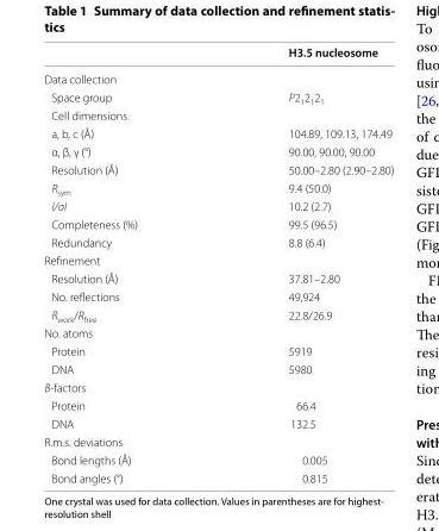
<table><thead><tr><td></td><td>H3.5 nucleosome</td></tr></thead><tbody><tr><td colspan="2">Data collection</td></tr><tr><td>Space group</td><td>P2<sub>1</sub>2<sub>1</sub>2<sub>1</sub></td></tr><tr><td colspan="2">Cell dimensions</td></tr><tr><td>a, b, c (Å)</td><td>104.89, 109.13, 174.49</td></tr><tr><td>α, β, γ (°)</td><td>90.00, 90.00, 90.00</td></tr><tr><td>Resolution (Å)</td><td>50.00–2.80 (2.90–2.80)</td></tr><tr><td>R<sub>sym</sub></td><td>9.4 (50.0)</td></tr><tr><td>I/σI</td><td>10.2 (2.7)</td></tr><tr><td>Completeness (%)</td><td>99.5 (96.5)</td></tr><tr><td>Redundancy</td><td>8.8 (6.4)</td></tr><tr><td colspan="2">Refinement</td></tr><tr><td>Resolution (Å)</td><td>37.81–2.80</td></tr><tr><td>No. reflections</td><td>49,924</td></tr><tr><td>R<sub>work</sub>/R<sub>free</sub></td><td>22.8/26.9</td></tr><tr><td colspan="2">No. atoms</td></tr><tr><td>Protein</td><td>5919</td></tr><tr><td>DNA</td><td>5980</td></tr><tr><td colspan="2">B-factors</td></tr><tr><td>Protein</td><td>66.4</td></tr><tr><td>DNA</td><td>132.5</td></tr><tr><td colspan="2">R.m.s. deviations</td></tr><tr><td>Bond lengths (Å)</td><td>0.005</td></tr><tr><td>Bond angles (°)</td><td>0.815</td></tr></tbody></table>